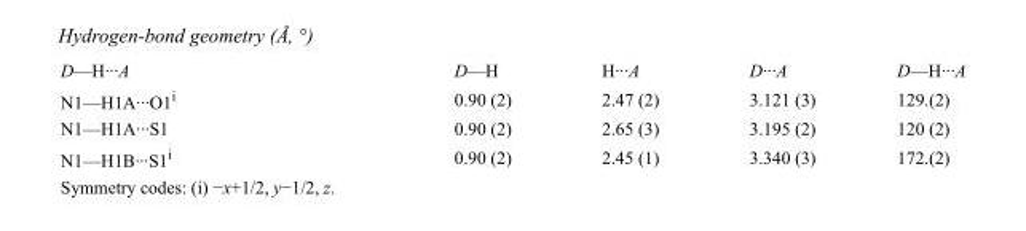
<table><tbody><tr><td>D—H···A</td><td>D—H</td><td>H···A</td><td>D···A</td><td>D—H···A</td></tr><tr><td>N1—H1A···O1<sup>i</sup></td><td>0.90 (2)</td><td>2.47 (2)</td><td>3.121 (3)</td><td>129.(2)</td></tr><tr><td>N1—H1A···S1</td><td>0.90 (2)</td><td>2.65 (3)</td><td>3.195 (2)</td><td>120 (2)</td></tr><tr><td>N1—H1B···S1<sup>i</sup></td><td>0.90 (2)</td><td>2.45 (1)</td><td>3.340 (3)</td><td>172.(2)</td></tr></tbody></table>